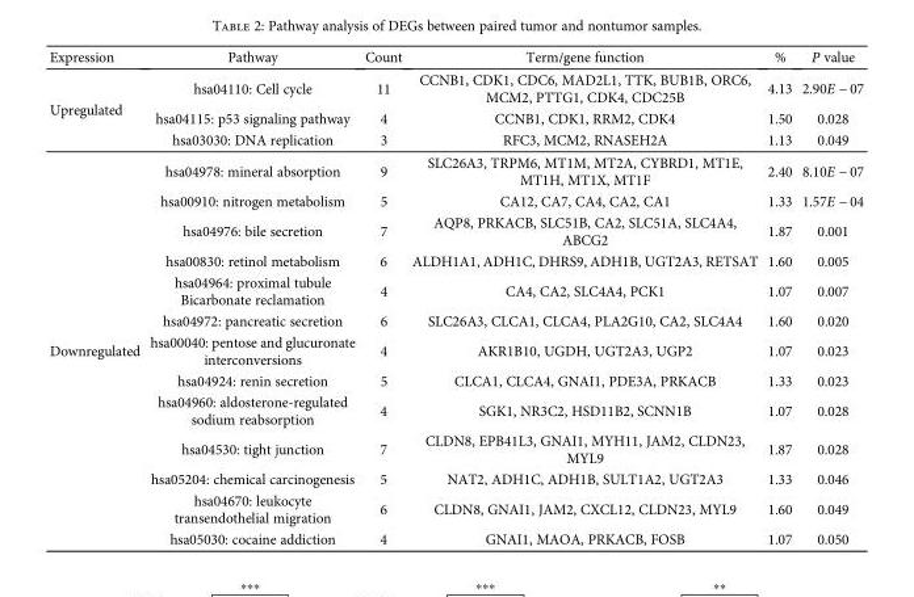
<table><thead><tr><td>Expression</td><td>Pathway</td><td>Count</td><td>Term/gene function</td><td>%</td><td>P value</td></tr></thead><tbody><tr><td rowspan="3">Upregulated</td><td>hsa04110: Cell cycle</td><td>11</td><td>CCNB1, CDK1, CDC6, MAD2L1, TTK, BUB1B, ORC6, MCM2, PTTG1, CDK4, CDC25B</td><td>4.13</td><td>2.90E − 07</td></tr><tr><td>hsa04115: p53 signaling pathway</td><td>4</td><td>CCNB1, CDK1, RRM2, CDK4</td><td>1.50</td><td>0.028</td></tr><tr><td>hsa03030: DNA replication</td><td>3</td><td>RFC3, MCM2, RNASEH2A</td><td>1.13</td><td>0.049</td></tr><tr><td rowspan="13">Downregulated</td><td>hsa04978: mineral absorption</td><td>9</td><td>SLC26A3, TRPM6, MT1M, MT2A, CYBRD1, MT1E, MT1H, MT1X, MT1F</td><td>2.40</td><td>8.10E − 07</td></tr><tr><td>hsa00910: nitrogen metabolism</td><td>5</td><td>CA12, CA7, CA4, CA2, CA1</td><td>1.33</td><td>1.57E − 04</td></tr><tr><td>hsa04976: bile secretion</td><td>7</td><td>AQP8, PRKACB, SLC51B, CA2, SLC51A, SLC4A4, ABCG2</td><td>1.87</td><td>0.001</td></tr><tr><td>hsa00830: retinol metabolism</td><td>6</td><td>ALDH1A1, ADH1C, DHRS9, ADH1B, UGT2A3, RETSAT</td><td>1.60</td><td>0.005</td></tr><tr><td>hsa04964: proximal tubule Bicarbonate reclamation</td><td>4</td><td>CA4, CA2, SLC4A4, PCK1</td><td>1.07</td><td>0.007</td></tr><tr><td>hsa04972: pancreatic secretion</td><td>6</td><td>SLC26A3, CLCA1, CLCA4, PLA2G10, CA2, SLC4A4</td><td>1.60</td><td>0.020</td></tr><tr><td>hsa00040: pentose and glucuronate interconversions</td><td>4</td><td>AKR1B10, UGDH, UGT2A3, UGP2</td><td>1.07</td><td>0.023</td></tr><tr><td>hsa04924: renin secretion</td><td>5</td><td>CLCA1, CLCA4, GNAI1, PDE3A, PRKACB</td><td>1.33</td><td>0.023</td></tr><tr><td>hsa04960: aldosterone-regulated sodium reabsorption</td><td>4</td><td>SGK1, NR3C2, HSD11B2, SCNN1B</td><td>1.07</td><td>0.028</td></tr><tr><td>hsa04530: tight junction</td><td>7</td><td>CLDN8, EPB41L3, GNAI1, MYH11, JAM2, CLDN23, MYL9</td><td>1.87</td><td>0.028</td></tr><tr><td>hsa05204: chemical carcinogenesis</td><td>5</td><td>NAT2, ADH1C, ADH1B, SULT1A2, UGT2A3</td><td>1.33</td><td>0.046</td></tr><tr><td>hsa04670: leukocyte transendothelial migration</td><td>6</td><td>CLDN8, GNAI1, JAM2, CXCL12, CLDN23, MYL9</td><td>1.60</td><td>0.049</td></tr><tr><td>hsa05030: cocaine addiction</td><td>4</td><td>GNAI1, MAOA, PRKACB, FOSB</td><td>1.07</td><td>0.050</td></tr></tbody></table>